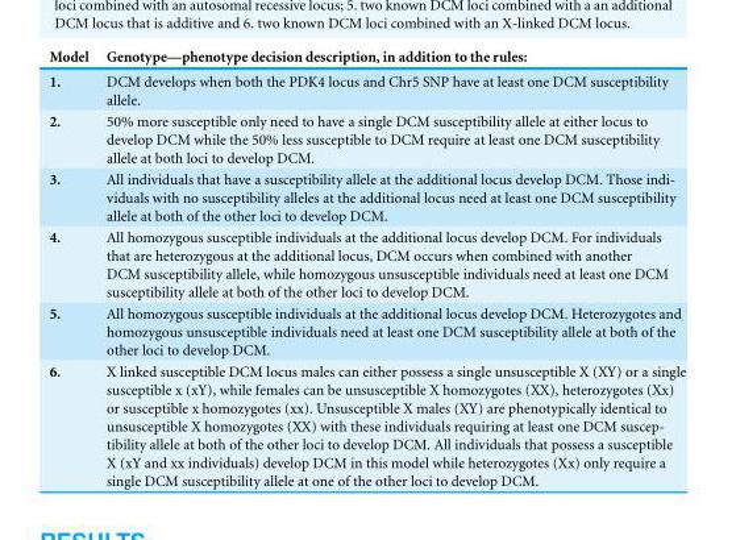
<table><thead><tr><td>Model</td><td>Genotype—phenotype decision description, in addition to the rules:</td></tr></thead><tbody><tr><td>1.</td><td>DCM develops when both the PDK4 locus and Chr5 SNP have at least one DCM susceptibility allele.</td></tr><tr><td>2.</td><td>50% more susceptible only need to have a single DCM susceptibility allele at either locus to develop DCM while the 50% less susceptible to DCM require at least one DCM susceptibility allele at both loci to develop DCM.</td></tr><tr><td>3.</td><td>All individuals that have a susceptibility allele at the additional locus develop DCM. Those indi- viduals with no susceptibility alleles at the additional locus need at least one DCM susceptibility allele at both of the other loci to develop DCM.</td></tr><tr><td>4.</td><td>All homozygous susceptible individuals at the additional locus develop DCM. For individuals that are heterozygous at the additional locus, DCM occurs when combined with another DCM susceptibility allele, while homozygous unsusceptible individuals need at least one DCM susceptibility allele at both of the other loci to develop DCM.</td></tr><tr><td>5.</td><td>All homozygous susceptible individuals at the additional locus develop DCM. Heterozygotes and homozygous unsusceptible individuals need at least one DCM susceptibility allele at both of the other loci to develop DCM.</td></tr><tr><td>6.</td><td>X linked susceptible DCM locus males can either possess a single unsusceptible X (XY) or a single susceptible x (xY), while females can be unsusceptible X homozygotes (XX), heterozygotes (Xx) or susceptible x homozygotes (xx). Unsusceptible X males (XY) are phenotypically identical to unsusceptible X homozygotes (XX) with these individuals requiring at least one DCM suscep- tibility allele at both of the other loci to develop DCM. All individuals that possess a susceptible X (xY and xx individuals) develop DCM in this model while heterozygotes (Xx) only require a single DCM susceptibility allele at one of the other loci to develop DCM.</td></tr></tbody></table>